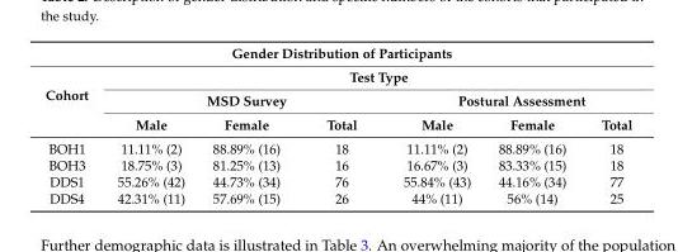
<table><thead><tr><td colspan="7">Gender Distribution of Participants</td></tr><tr><td rowspan="3">Cohort</td><td colspan="6">Test Type</td></tr><tr><td colspan="3">MSD Survey</td><td colspan="3">Postural Assessment</td></tr><tr><td>Male</td><td>Female</td><td>Total</td><td>Male</td><td>Female</td><td>Total</td></tr></thead><tbody><tr><td>BOH1</td><td>11.11% (2)</td><td>88.89% (16)</td><td>18</td><td>11.11% (2)</td><td>88.89% (16)</td><td>18</td></tr><tr><td>BOH3</td><td>18.75% (3)</td><td>81.25% (13)</td><td>16</td><td>16.67% (3)</td><td>83.33% (15)</td><td>18</td></tr><tr><td>DDS1</td><td>55.26% (42)</td><td>44.73% (34)</td><td>76</td><td>55.84% (43)</td><td>44.16% (34)</td><td>77</td></tr><tr><td>DDS4</td><td>42.31% (11)</td><td>57.69% (15)</td><td>26</td><td>44% (11)</td><td>56% (14)</td><td>25</td></tr></tbody></table>